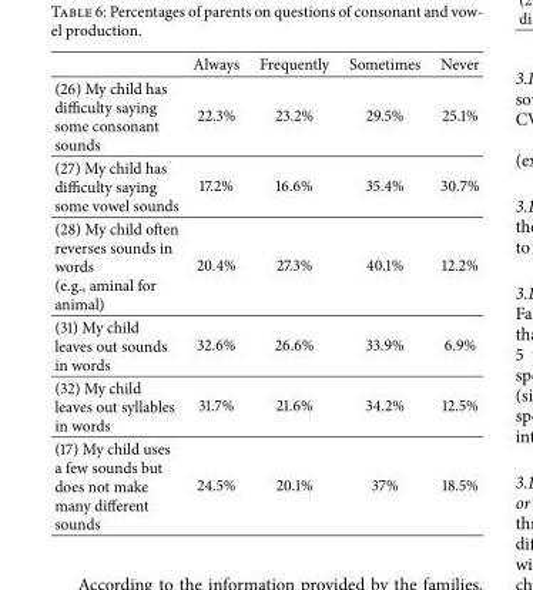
<table><thead><tr><td></td><td>Always</td><td>Frequently</td><td>Sometimes</td><td>Never</td></tr></thead><tbody><tr><td>(26) My child has difficulty saying some consonant sounds</td><td>22.3%</td><td>23.2%</td><td>29.5%</td><td>25.1%</td></tr><tr><td>(27) My child has difficulty saying some vowel sounds</td><td>17.2%</td><td>16.6%</td><td>35.4%</td><td>30.7%</td></tr><tr><td>(28) My child often reverses sounds in words (e.g., aminal for animal)</td><td>20.4%</td><td>27.3%</td><td>40.1%</td><td>12.2%</td></tr><tr><td>(31) My child leaves out sounds in words</td><td>32.6%</td><td>26.6%</td><td>33.9%</td><td>6.9%</td></tr><tr><td>(32) My child leaves out syllables in words</td><td>31.7%</td><td>21.6%</td><td>34.2%</td><td>12.5%</td></tr><tr><td>(17) My child uses a few sounds but does not make many different sounds</td><td>24.5%</td><td>20.1%</td><td>37%</td><td>18.5%</td></tr></tbody></table>